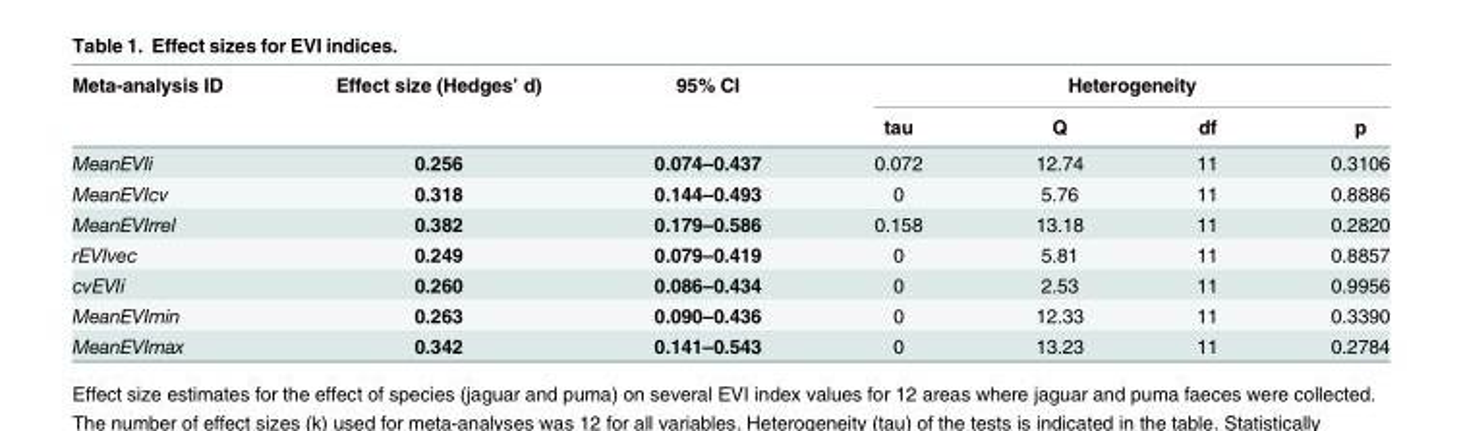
<table><thead><tr><td rowspan="2">Meta-analysis ID</td><td rowspan="2">Effect size (Hedges’ d)</td><td rowspan="2">95% CI</td><td colspan="4">Heterogeneity</td></tr><tr><td>tau</td><td>Q</td><td>df</td><td>p</td></tr></thead><tbody><tr><td>MeanEVIi</td><td>0.256</td><td>0.074–0.437</td><td>0.072</td><td>12.74</td><td>11</td><td>0.3106</td></tr><tr><td>MeanEVIcv</td><td>0.318</td><td>0.144–0.493</td><td>0</td><td>5.76</td><td>11</td><td>0.8886</td></tr><tr><td>MeanEVIrrel</td><td>0.382</td><td>0.179–0.586</td><td>0.158</td><td>13.18</td><td>11</td><td>0.2820</td></tr><tr><td>rEVIvec</td><td>0.249</td><td>0.079–0.419</td><td>0</td><td>5.81</td><td>11</td><td>0.8857</td></tr><tr><td>cvEVIi</td><td>0.260</td><td>0.086–0.434</td><td>0</td><td>2.53</td><td>11</td><td>0.9956</td></tr><tr><td>MeanEVImin</td><td>0.263</td><td>0.090–0.436</td><td>0</td><td>12.33</td><td>11</td><td>0.3390</td></tr><tr><td>MeanEVImax</td><td>0.342</td><td>0.141–0.543</td><td>0</td><td>13.23</td><td>11</td><td>0.2784</td></tr></tbody></table>